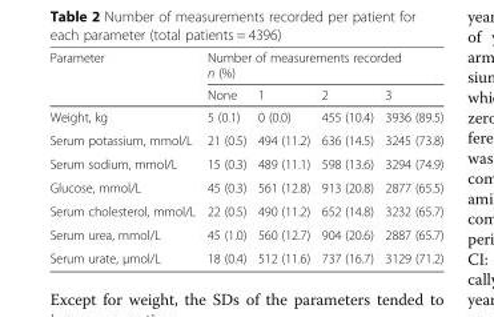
<table><thead><tr><td rowspan="2">Parameter</td><td colspan="4">Number of measurements recorded n (%)</td></tr><tr><td>None</td><td>1</td><td>2</td><td>3</td></tr></thead><tbody><tr><td>Weight, kg</td><td>5 (0.1)</td><td>0 (0.0)</td><td>455 (10.4)</td><td>3936 (89.5)</td></tr><tr><td>Serum potassium, mmol/L</td><td>21 (0.5)</td><td>494 (11.2)</td><td>636 (14.5)</td><td>3245 (73.8)</td></tr><tr><td>Serum sodium, mmol/L</td><td>15 (0.3)</td><td>489 (11.1)</td><td>598 (13.6)</td><td>3294 (74.9)</td></tr><tr><td>Glucose, mmol/L</td><td>45 (0.3)</td><td>561 (12.8)</td><td>913 (20.8)</td><td>2877 (65.5)</td></tr><tr><td>Serum cholesterol, mmol/L</td><td>22 (0.5)</td><td>490 (11.2)</td><td>652 (14.8)</td><td>3232 (65.7)</td></tr><tr><td>Serum urea, mmol/L</td><td>45 (1.0)</td><td>560 (12.7)</td><td>904 (20.6)</td><td>2887 (65.7)</td></tr><tr><td>Serum urate, μmol/L</td><td>18 (0.4)</td><td>512 (11.6)</td><td>737 (16.7)</td><td>3129 (71.2)</td></tr></tbody></table>